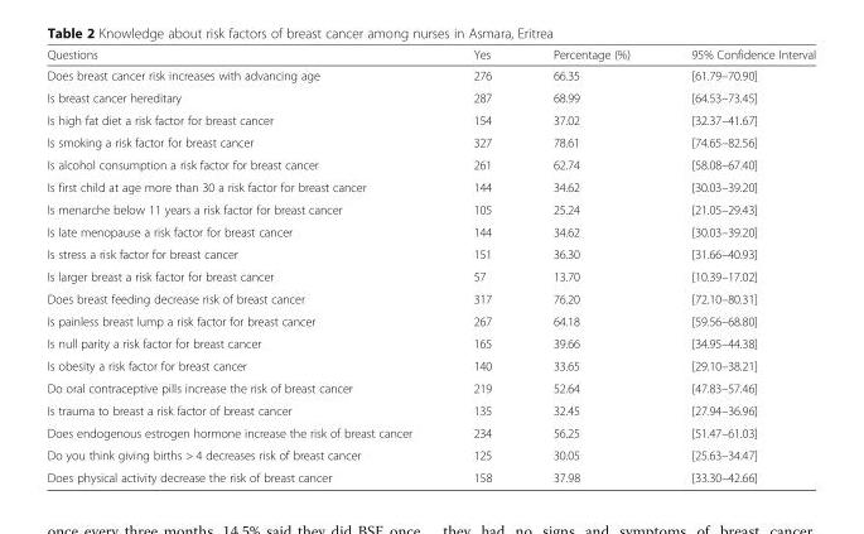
<table><thead><tr><td>Questions</td><td>Yes</td><td>Percentage (%)</td><td>95% Confidence Interval</td></tr></thead><tbody><tr><td>Does breast cancer risk increases with advancing age</td><td>276</td><td>66.35</td><td>[61.79–70.90]</td></tr><tr><td>Is breast cancer hereditary</td><td>287</td><td>68.99</td><td>[64.53–73.45]</td></tr><tr><td>Is high fat diet a risk factor for breast cancer</td><td>154</td><td>37.02</td><td>[32.37–41.67]</td></tr><tr><td>Is smoking a risk factor for breast cancer</td><td>327</td><td>78.61</td><td>[74.65–82.56]</td></tr><tr><td>Is alcohol consumption a risk factor for breast cancer</td><td>261</td><td>62.74</td><td>[58.08–67.40]</td></tr><tr><td>Is first child at age more than 30 a risk factor for breast cancer</td><td>144</td><td>34.62</td><td>[30.03–39.20]</td></tr><tr><td>Is menarche below 11 years a risk factor for breast cancer</td><td>105</td><td>25.24</td><td>[21.05–29.43]</td></tr><tr><td>Is late menopause a risk factor for breast cancer</td><td>144</td><td>34.62</td><td>[30.03–39.20]</td></tr><tr><td>Is stress a risk factor for breast cancer</td><td>151</td><td>36.30</td><td>[31.66–40.93]</td></tr><tr><td>Is larger breast a risk factor for breast cancer</td><td>57</td><td>13.70</td><td>[10.39–17.02]</td></tr><tr><td>Does breast feeding decrease risk of breast cancer</td><td>317</td><td>76.20</td><td>[72.10–80.31]</td></tr><tr><td>Is painless breast lump a risk factor for breast cancer</td><td>267</td><td>64.18</td><td>[59.56–68.80]</td></tr><tr><td>Is null parity a risk factor for breast cancer</td><td>165</td><td>39.66</td><td>[34.95–44.38]</td></tr><tr><td>Is obesity a risk factor for breast cancer</td><td>140</td><td>33.65</td><td>[29.10–38.21]</td></tr><tr><td>Do oral contraceptive pills increase the risk of breast cancer</td><td>219</td><td>52.64</td><td>[47.83–57.46]</td></tr><tr><td>Is trauma to breast a risk factor of breast cancer</td><td>135</td><td>32.45</td><td>[27.94–36.96]</td></tr><tr><td>Does endogenous estrogen hormone increase the risk of breast cancer</td><td>234</td><td>56.25</td><td>[51.47–61.03]</td></tr><tr><td>Do you think giving births &gt; 4 decreases risk of breast cancer</td><td>125</td><td>30.05</td><td>[25.63–34.47]</td></tr><tr><td>Does physical activity decrease the risk of breast cancer</td><td>158</td><td>37.98</td><td>[33.30–42.66]</td></tr></tbody></table>